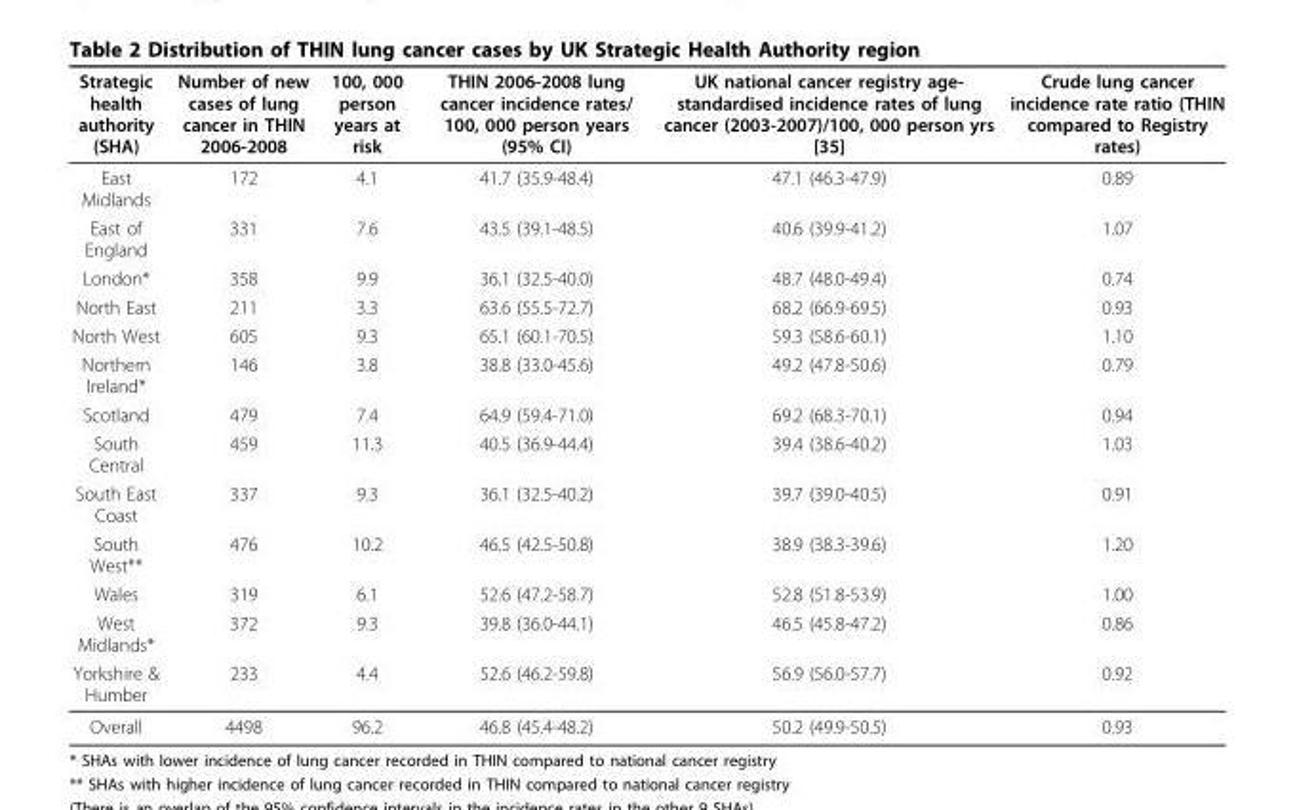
<table><thead><tr><td>Strategic health authority (SHA)</td><td>Number of new cases of lung cancer in THIN 2006-2008</td><td>100, 000 person years at risk</td><td>THIN 2006-2008 lung cancer incidence rates/ 100, 000 person years (95% CI)</td><td>UK national cancer registry age- standardised incidence rates of lung cancer (2003-2007)/100, 000 person yrs [35]</td><td>Crude lung cancer incidence rate ratio (THIN compared to Registry rates)</td></tr></thead><tbody><tr><td>East Midlands</td><td>172</td><td>4.1</td><td>41.7 (35.9-48.4)</td><td>47.1 (46.3-47.9)</td><td>0.89</td></tr><tr><td>East of England</td><td>331</td><td>7.6</td><td>43.5 (39.1-48.5)</td><td>40.6 (39.9-41.2)</td><td>1.07</td></tr><tr><td>London*</td><td>358</td><td>9.9</td><td>36.1 (32.5-40.0)</td><td>48.7 (48.0-49.4)</td><td>0.74</td></tr><tr><td>North East</td><td>211</td><td>3.3</td><td>63.6 (55.5-72.7)</td><td>68.2 (66.9-69.5)</td><td>0.93</td></tr><tr><td>North West</td><td>605</td><td>9.3</td><td>65.1 (60.1-70.5)</td><td>59.3 (58.6-60.1)</td><td>1.10</td></tr><tr><td>Northern Ireland*</td><td>146</td><td>3.8</td><td>38.8 (33.0-45.6)</td><td>49.2 (47.8-50.6)</td><td>0.79</td></tr><tr><td>Scotland</td><td>479</td><td>7.4</td><td>64.9 (59.4-71.0)</td><td>69.2 (68.3-70.1)</td><td>0.94</td></tr><tr><td>South Central</td><td>459</td><td>11.3</td><td>40.5 (36.9-44.4)</td><td>39.4 (38.6-40.2)</td><td>1.03</td></tr><tr><td>South East Coast</td><td>337</td><td>9.3</td><td>36.1 (32.5-40.2)</td><td>39.7 (39.0-40.5)</td><td>0.91</td></tr><tr><td>South West**</td><td>476</td><td>10.2</td><td>46.5 (42.5-50.8)</td><td>38.9 (38.3-39.6)</td><td>1.20</td></tr><tr><td>Wales</td><td>319</td><td>6.1</td><td>52.6 (47.2-58.7)</td><td>52.8 (51.8-53.9)</td><td>1.00</td></tr><tr><td>West Midlands*</td><td>372</td><td>9.3</td><td>39.8 (36.0-44.1)</td><td>46.5 (45.8-47.2)</td><td>0.86</td></tr><tr><td>Yorkshire &amp; Humber</td><td>233</td><td>4.4</td><td>52.6 (46.2-59.8)</td><td>56.9 (56.0-57.7)</td><td>0.92</td></tr><tr><td>Overall</td><td>4498</td><td>96.2</td><td>46.8 (45.4-48.2)</td><td>50.2 (49.9-50.5)</td><td>0.93</td></tr></tbody></table>